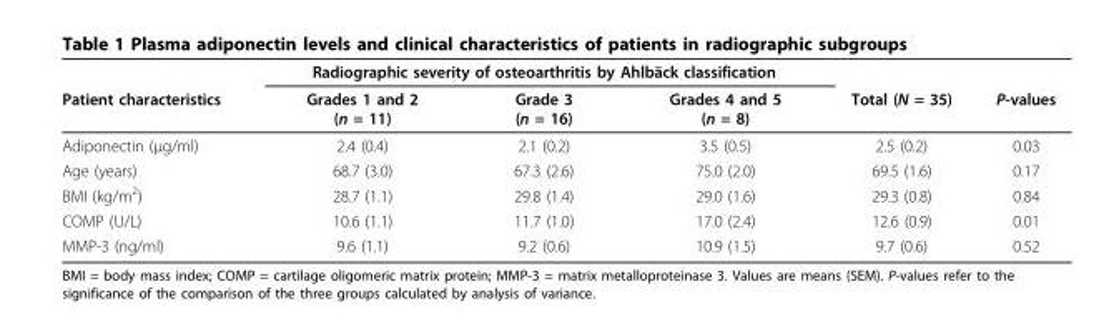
<table><thead><tr><td rowspan="2">Patient characteristics</td><td colspan="3">Radiographic severity of osteoarthritis by Ahlbäck classification</td><td rowspan="2">Total (N = 35)</td><td rowspan="2">P-values</td></tr><tr><td>Grades 1 and 2 (n = 11)</td><td>Grade 3 (n = 16)</td><td>Grades 4 and 5 (n = 8)</td></tr></thead><tbody><tr><td>Adiponectin (μg/ml)</td><td>2.4 (0.4)</td><td>2.1 (0.2)</td><td>3.5 (0.5)</td><td>2.5 (0.2)</td><td>0.03</td></tr><tr><td>Age (years)</td><td>68.7 (3.0)</td><td>67.3 (2.6)</td><td>75.0 (2.0)</td><td>69.5 (1.6)</td><td>0.17</td></tr><tr><td>BMI (kg/m<sup>2</sup>)</td><td>28.7 (1.1)</td><td>29.8 (1.4)</td><td>29.0 (1.6)</td><td>29.3 (0.8)</td><td>0.84</td></tr><tr><td>COMP (U/L)</td><td>10.6 (1.1)</td><td>11.7 (1.0)</td><td>17.0 (2.4)</td><td>12.6 (0.9)</td><td>0.01</td></tr><tr><td>MMP-3 (ng/ml)</td><td>9.6 (1.1)</td><td>9.2 (0.6)</td><td>10.9 (1.5)</td><td>9.7 (0.6)</td><td>0.52</td></tr></tbody></table>